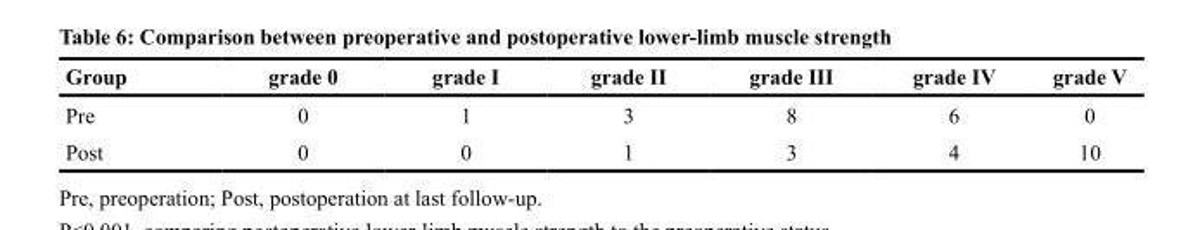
<table><thead><tr><td>Group</td><td>grade 0</td><td>grade I</td><td>grade II</td><td>grade III</td><td>grade IV</td><td>grade V</td></tr></thead><tbody><tr><td>Pre</td><td>0</td><td>1</td><td>3</td><td>8</td><td>6</td><td>0</td></tr><tr><td>Post</td><td>0</td><td>0</td><td>1</td><td>3</td><td>4</td><td>10</td></tr></tbody></table>